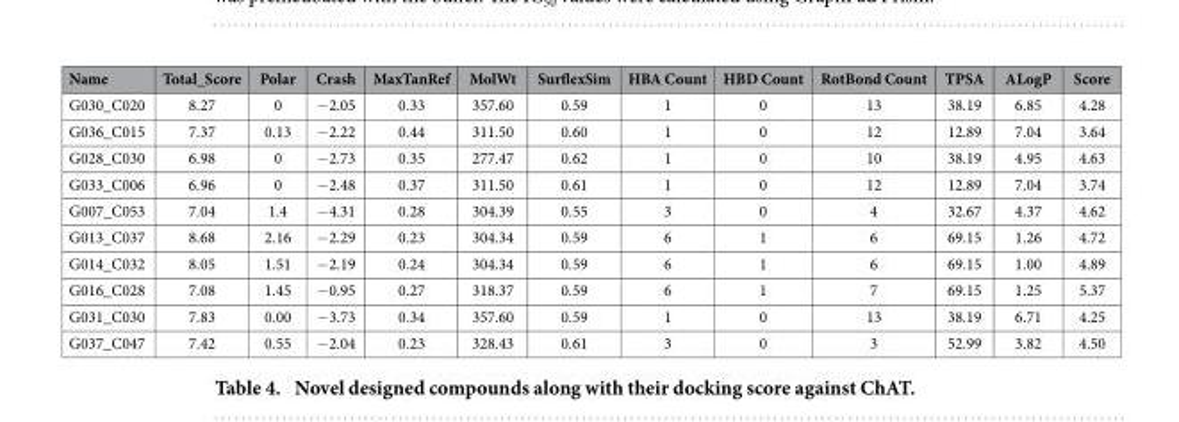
<table><thead><tr><td>Name</td><td>Total_Score</td><td>Polar</td><td>Crash</td><td>MaxTanRef</td><td>MolWt</td><td>SurflexSim</td><td>HBA Count</td><td>HBD Count</td><td>RotBond Count</td><td>TPSA</td><td>ALogP</td><td>Score</td></tr></thead><tbody><tr><td>G030_C020</td><td>8.27</td><td>0</td><td>− 2.05</td><td>0.33</td><td>357.60</td><td>0.59</td><td>1</td><td>0</td><td>13</td><td>38.19</td><td>6.85</td><td>4.28</td></tr><tr><td>G036_C015</td><td>7.37</td><td>0.13</td><td>− 2.22</td><td>0.44</td><td>311.50</td><td>0.60</td><td>1</td><td>0</td><td>12</td><td>12.89</td><td>7.04</td><td>3.64</td></tr><tr><td>G028_C030</td><td>6.98</td><td>0</td><td>− 2.73</td><td>0.35</td><td>277.47</td><td>0.62</td><td>1</td><td>0</td><td>10</td><td>38.19</td><td>4.95</td><td>4.63</td></tr><tr><td>G033_C006</td><td>6.96</td><td>0</td><td>− 2.48</td><td>0.37</td><td>311.50</td><td>0.61</td><td>1</td><td>0</td><td>12</td><td>12.89</td><td>7.04</td><td>3.74</td></tr><tr><td>G007_C053</td><td>7.04</td><td>1.4</td><td>− 4.31</td><td>0.28</td><td>304.39</td><td>0.55</td><td>3</td><td>0</td><td>4</td><td>32.67</td><td>4.37</td><td>4.62</td></tr><tr><td>G013_C037</td><td>8.68</td><td>2.16</td><td>− 2.29</td><td>0.23</td><td>304.34</td><td>0.59</td><td>6</td><td>1</td><td>6</td><td>69.15</td><td>1.26</td><td>4.72</td></tr><tr><td>G014_C032</td><td>8.05</td><td>1.51</td><td>− 2.19</td><td>0.24</td><td>304.34</td><td>0.59</td><td>6</td><td>1</td><td>6</td><td>69.15</td><td>1.00</td><td>4.89</td></tr><tr><td>G016_C028</td><td>7.08</td><td>1.45</td><td>− 0.95</td><td>0.27</td><td>318.37</td><td>0.59</td><td>6</td><td>1</td><td>7</td><td>69.15</td><td>1.25</td><td>5.37</td></tr><tr><td>G031_C030</td><td>7.83</td><td>0.00</td><td>− 3.73</td><td>0.34</td><td>357.60</td><td>0.59</td><td>1</td><td>0</td><td>13</td><td>38.19</td><td>6.71</td><td>4.25</td></tr><tr><td>G037_C047</td><td>7.42</td><td>0.55</td><td>− 2.04</td><td>0.23</td><td>328.43</td><td>0.61</td><td>3</td><td>0</td><td>3</td><td>52.99</td><td>3.82</td><td>4.50</td></tr></tbody></table>